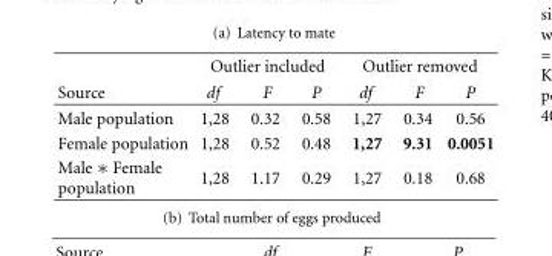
<table><thead><tr><td rowspan="2">Source</td><td colspan="3">Outlier included</td><td colspan="3">Outlier removed</td></tr><tr><td>df</td><td>F</td><td>P</td><td>df</td><td>F</td><td>P</td></tr></thead><tbody><tr><td>Male population</td><td>1,28</td><td>0.32</td><td>0.58</td><td>1,27</td><td>0.34</td><td>0.56</td></tr><tr><td>Female population</td><td>1,28</td><td>0.52</td><td>0.48</td><td>1,27</td><td>9.31</td><td>0.0051</td></tr><tr><td>Male ∗ Female population</td><td>1,28</td><td>1.17</td><td>0.29</td><td>1,27</td><td>0.18</td><td>0.68</td></tr></tbody></table>